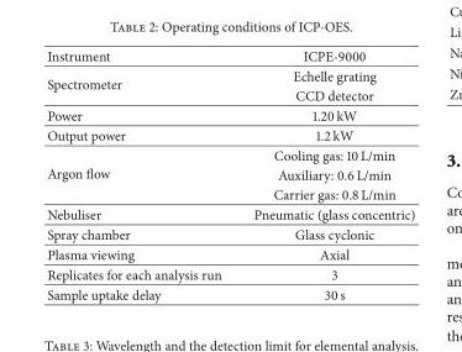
<table><thead><tr><td>Instrument</td><td>ICPE-9000</td></tr></thead><tbody><tr><td rowspan="2">Spectrometer</td><td>Echelle grating</td></tr><tr><td>CCD detector</td></tr><tr><td>Power</td><td>1.20 kW</td></tr><tr><td>Output power</td><td>1.2 kW</td></tr><tr><td rowspan="3">Argon flow</td><td>Cooling gas: 10 L/min</td></tr><tr><td>Auxiliary: 0.6 L/min</td></tr><tr><td>Carrier gas: 0.8 L/min</td></tr><tr><td>Nebuliser</td><td>Pneumatic (glass concentric)</td></tr><tr><td>Spray chamber</td><td>Glass cyclonic</td></tr><tr><td>Plasma viewing</td><td>Axial</td></tr><tr><td>Replicates for each analysis run</td><td>3</td></tr><tr><td>Sample uptake delay</td><td>30 s</td></tr></tbody></table>